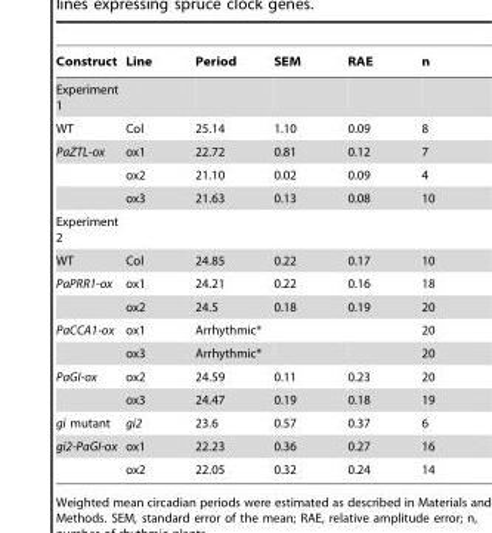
<table><thead><tr><td>Construct</td><td>Line</td><td>Period</td><td>SEM</td><td>RAE</td><td>n</td></tr></thead><tbody><tr><td colspan="6">Experiment 1</td></tr><tr><td>WT</td><td>Col</td><td>25.14</td><td>1.10</td><td>0.09</td><td>8</td></tr><tr><td rowspan="3">PaZTL-ox</td><td>ox1</td><td>22.72</td><td>0.81</td><td>0.12</td><td>7</td></tr><tr><td>ox2</td><td>21.10</td><td>0.02</td><td>0.09</td><td>4</td></tr><tr><td>ox3</td><td>21.63</td><td>0.13</td><td>0.08</td><td>10</td></tr><tr><td colspan="6">Experiment 2</td></tr><tr><td>WT</td><td>Col</td><td>24.85</td><td>0.22</td><td>0.17</td><td>10</td></tr><tr><td rowspan="2">PaPRR1-ox</td><td>ox1</td><td>24.21</td><td>0.22</td><td>0.16</td><td>18</td></tr><tr><td>ox2</td><td>24.5</td><td>0.18</td><td>0.19</td><td>20</td></tr><tr><td rowspan="2">PaCCA1-ox</td><td>ox1</td><td>Arrhythmic*</td><td></td><td></td><td>20</td></tr><tr><td>ox3</td><td>Arrhythmic*</td><td></td><td></td><td>20</td></tr><tr><td rowspan="2">PaGI-ox</td><td>ox2</td><td>24.59</td><td>0.11</td><td>0.23</td><td>20</td></tr><tr><td>ox3</td><td>24.47</td><td>0.19</td><td>0.18</td><td>19</td></tr><tr><td>gi mutant</td><td>gi2</td><td>23.6</td><td>0.57</td><td>0.37</td><td>6</td></tr><tr><td rowspan="2">gi2-PaGI-ox</td><td>ox1</td><td>22.23</td><td>0.36</td><td>0.27</td><td>16</td></tr><tr><td>ox2</td><td>22.05</td><td>0.32</td><td>0.24</td><td>14</td></tr></tbody></table>